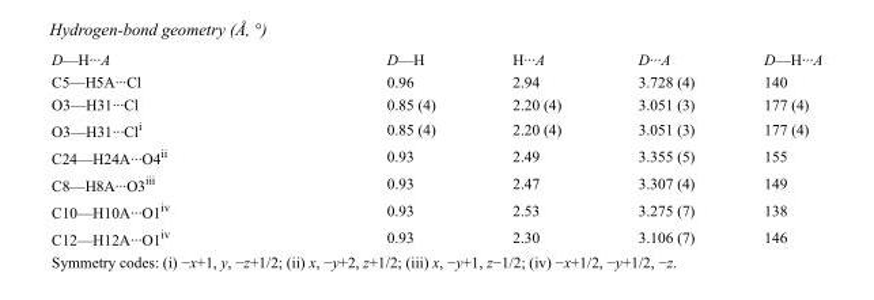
<table><tbody><tr><td>D—H···A</td><td>D—H</td><td>H···A</td><td>D···A</td><td>D—H···A</td></tr><tr><td>C5—H5A···Cl</td><td>0.96</td><td>2.94</td><td>3.728 (4)</td><td>140</td></tr><tr><td>O3—H31···Cl</td><td>0.85 (4)</td><td>2.20 (4)</td><td>3.051 (3)</td><td>177 (4)</td></tr><tr><td>O3—H31···Cl<sup>i</sup></td><td>0.85 (4)</td><td>2.20 (4)</td><td>3.051 (3)</td><td>177 (4)</td></tr><tr><td>C24—H24A···O4<sup>ii</sup></td><td>0.93</td><td>2.49</td><td>3.355 (5)</td><td>155</td></tr><tr><td>C8—H8A···O3<sup>iii</sup></td><td>0.93</td><td>2.47</td><td>3.307 (4)</td><td>149</td></tr><tr><td>C10—H10A···O1<sup>iv</sup></td><td>0.93</td><td>2.53</td><td>3.275 (7)</td><td>138</td></tr><tr><td>C12—H12A···O1<sup>iv</sup></td><td>0.93</td><td>2.30</td><td>3.106 (7)</td><td>146</td></tr></tbody></table>